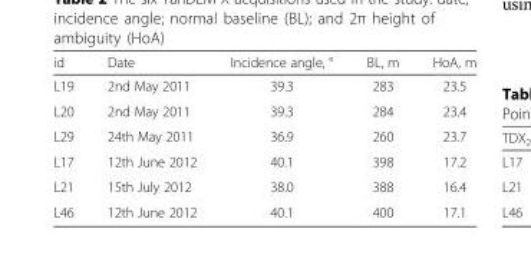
<table><thead><tr><td>id</td><td>Date</td><td>Incidence angle, °</td><td>BL, m</td><td>HoA, m</td></tr></thead><tbody><tr><td>L19</td><td>2nd May 2011</td><td>39.3</td><td>283</td><td>23.5</td></tr><tr><td>L20</td><td>2nd May 2011</td><td>39.3</td><td>284</td><td>23.4</td></tr><tr><td>L29</td><td>24th May 2011</td><td>36.9</td><td>260</td><td>23.7</td></tr><tr><td>L17</td><td>12th June 2012</td><td>40.1</td><td>398</td><td>17.2</td></tr><tr><td>L21</td><td>15th July 2012</td><td>38.0</td><td>388</td><td>16.4</td></tr><tr><td>L46</td><td>12th June 2012</td><td>40.1</td><td>400</td><td>17.1</td></tr></tbody></table>